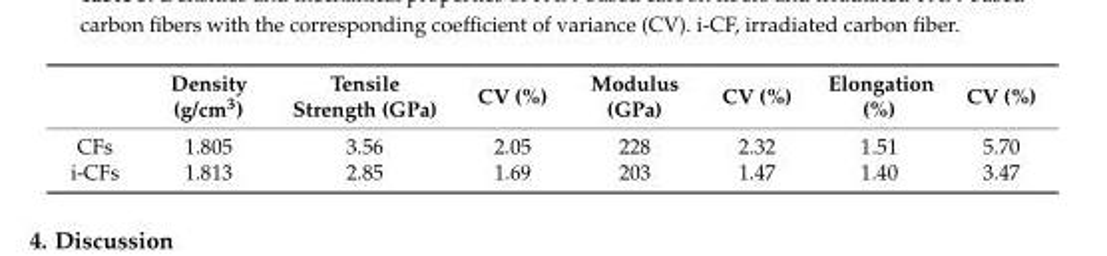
<table><thead><tr><td></td><td>Density (g/cm<sup>3</sup>)</td><td>Tensile Strength (GPa)</td><td>CV (%)</td><td>Modulus (GPa)</td><td>CV (%)</td><td>Elongation (%)</td><td>CV (%)</td></tr></thead><tbody><tr><td>CFs</td><td>1.805</td><td>3.56</td><td>2.05</td><td>228</td><td>2.32</td><td>1.51</td><td>5.70</td></tr><tr><td>i-CFs</td><td>1.813</td><td>2.85</td><td>1.69</td><td>203</td><td>1.47</td><td>1.40</td><td>3.47</td></tr></tbody></table>